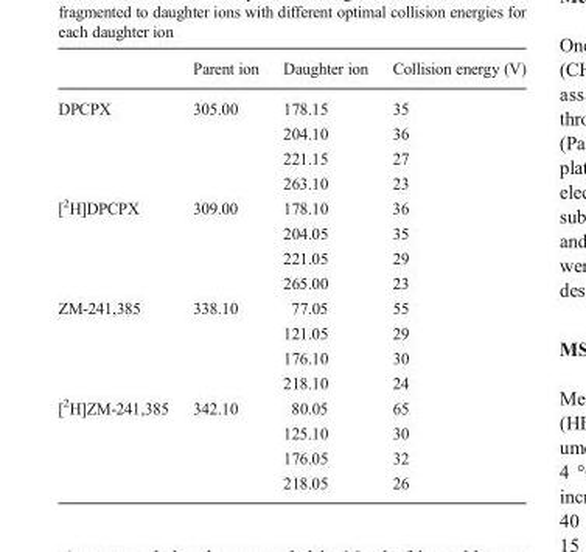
<table><thead><tr><td></td><td>Parent ion</td><td>Daughter ion</td><td>Collision energy (V)</td></tr></thead><tbody><tr><td rowspan="4">DPCPX</td><td rowspan="4">305.00</td><td>178.15</td><td>35</td></tr><tr><td>204.10</td><td>36</td></tr><tr><td>221.15</td><td>27</td></tr><tr><td>263.10</td><td>23</td></tr><tr><td rowspan="4">[<sup>2</sup>H]DPCPX</td><td rowspan="4">309.00</td><td>178.10</td><td>36</td></tr><tr><td>204.05</td><td>35</td></tr><tr><td>221.05</td><td>29</td></tr><tr><td>265.00</td><td>23</td></tr><tr><td rowspan="4">ZM-241,385</td><td rowspan="4">338.10</td><td>77.05</td><td>55</td></tr><tr><td>121.05</td><td>29</td></tr><tr><td>176.10</td><td>30</td></tr><tr><td>218.10</td><td>24</td></tr><tr><td rowspan="4">[<sup>2</sup>H]ZM-241,385</td><td rowspan="4">342.10</td><td>80.05</td><td>65</td></tr><tr><td>125.10</td><td>30</td></tr><tr><td>176.05</td><td>32</td></tr><tr><td>218.05</td><td>26</td></tr></tbody></table>